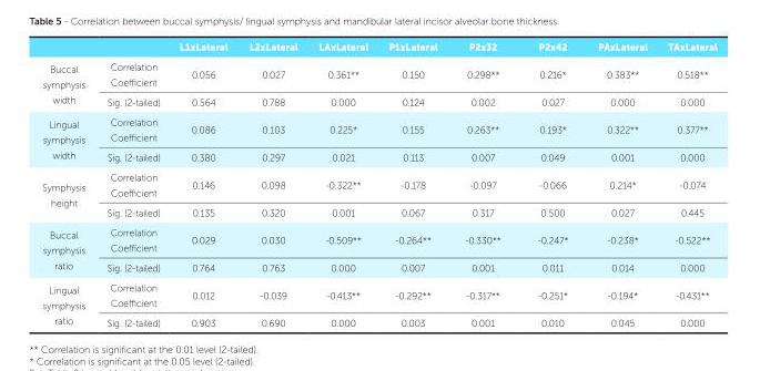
<table><thead><tr><td></td><td></td><td>L1xLateral</td><td>L2xLateral</td><td>LAxLateral</td><td>P1xLateral</td><td>P2x32</td><td>P2x42</td><td>PAxLateral</td><td>TAxLateral</td></tr></thead><tbody><tr><td rowspan="2">Buccal symphysis width</td><td>Correlation Coefficient</td><td>0.056</td><td>0.027</td><td>0.361**</td><td>0.150</td><td>0.298**</td><td>0.216*</td><td>0.383**</td><td>0.518**</td></tr><tr><td>Sig. (2-tailed)</td><td>0.564</td><td>0.788</td><td>0.000</td><td>0.124</td><td>0.002</td><td>0.027</td><td>0.000</td><td>0.000</td></tr><tr><td rowspan="2">Lingual symphysis width</td><td>Correlation Coefficient</td><td>0.086</td><td>0.103</td><td>0.225*</td><td>0.155</td><td>0.263**</td><td>0.193*</td><td>0.322**</td><td>0.377**</td></tr><tr><td>Sig. (2-tailed)</td><td>0.380</td><td>0.297</td><td>0.021</td><td>0.113</td><td>0.007</td><td>0.049</td><td>0.001</td><td>0.000</td></tr><tr><td rowspan="2">Symphysis height</td><td>Correlation Coefficient</td><td>0.146</td><td>0.098</td><td>-0.322**</td><td>-0.178</td><td>-0.097</td><td>-0.066</td><td>0.214*</td><td>-0.074</td></tr><tr><td>Sig. (2-tailed)</td><td>0.135</td><td>0.320</td><td>0.001</td><td>0.067</td><td>0.317</td><td>0.500</td><td>0.027</td><td>0.445</td></tr><tr><td rowspan="2">Buccal symphysis ratio</td><td>Correlation Coefficient</td><td>0.029</td><td>0.030</td><td>-0.509**</td><td>-0.264**</td><td>-0.330**</td><td>-0.247*</td><td>-0.238*</td><td>-0.522**</td></tr><tr><td>Sig. (2-tailed)</td><td>0.764</td><td>0.763</td><td>0.000</td><td>0.007</td><td>0.001</td><td>0.011</td><td>0.014</td><td>0.000</td></tr><tr><td rowspan="2">Lingual symphysis ratio</td><td>Correlation Coefficient</td><td>0.012</td><td>-0.039</td><td>-0.413**</td><td>-0.292**</td><td>-0.317**</td><td>-0.251*</td><td>-0.194*</td><td>-0.431**</td></tr><tr><td>Sig. (2-tailed)</td><td>0.903</td><td>0.690</td><td>0.000</td><td>0.003</td><td>0.001</td><td>0.010</td><td>0.045</td><td>0.000</td></tr></tbody></table>